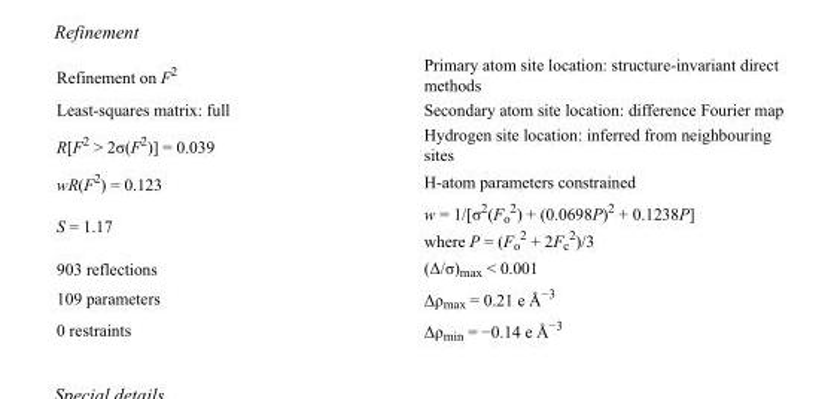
<table><tbody><tr><td>Refinement on F<sup>2</sup></td><td>Primary atom site location: structure-invariant direct methods</td></tr><tr><td>Least-squares matrix: full</td><td>Secondary atom site location: difference Fourier map</td></tr><tr><td>R[F<sup>2</sup> &gt; 2σ(F<sup>2</sup>)] = 0.039</td><td>Hydrogen site location: inferred from neighbouring sites</td></tr><tr><td>wR(F<sup>2</sup>) = 0.123</td><td>H-atom parameters constrained</td></tr><tr><td>S = 1.17</td><td>w = 1/[σ<sup>2</sup>(F<sub>o</sub> <sup>2</sup>) + (0.0698P)<sup>2</sup> + 0.1238P] where P = (F<sub>o</sub> <sup>2</sup> + 2F<sub>c</sub> <sup>2</sup>)/3</td></tr><tr><td>903 reflections</td><td>(Δ/σ)<sub>max</sub> &lt; 0.001</td></tr><tr><td>109 parameters</td><td>Δρ<sub>max</sub> = 0.21 e Å<sup>−3</sup></td></tr><tr><td>0 restraints</td><td>Δρ<sub>min</sub> = −0.14 e Å<sup>−3</sup></td></tr></tbody></table>